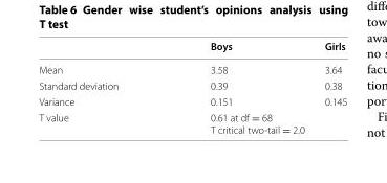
<table><thead><tr><td></td><td>Boys</td><td>Girls</td></tr></thead><tbody><tr><td>Mean</td><td>3.58</td><td>3.64</td></tr><tr><td>Standard deviation</td><td>0.39</td><td>0.38</td></tr><tr><td>Variance</td><td>0.151</td><td>0.145</td></tr><tr><td>T value</td><td colspan="2">0.61 at df = 68 T critical two-tail = 2.0</td></tr></tbody></table>